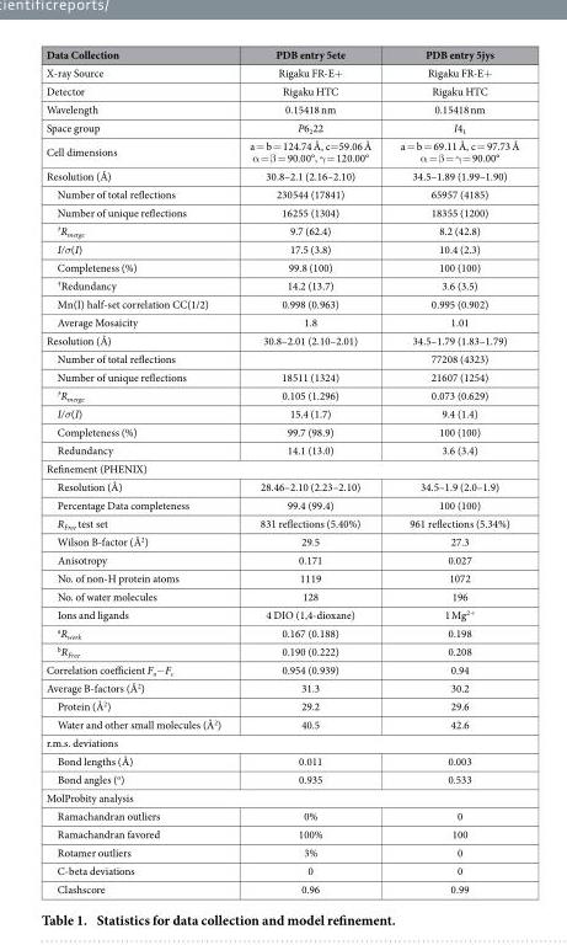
<table><thead><tr><td>Data Collection</td><td>PDB entry 5ete</td><td>PDB entry 5jys</td></tr></thead><tbody><tr><td>X-ray Source</td><td>Rigaku FR-E+</td><td>Rigaku FR-E+</td></tr><tr><td>Detector</td><td>Rigaku HTC</td><td>Rigaku HTC</td></tr><tr><td>Wavelength</td><td>0.15418 nm</td><td>0.15418 nm</td></tr><tr><td>Space group</td><td>P6<sub>2</sub>22</td><td>I4<sub>1</sub></td></tr><tr><td>Cell dimensions</td><td>a = b = 124.74 Å, c= 59.06 Å α = β = 90.00°, γ = 120.00°</td><td>a = b = 69.11 Å, c = 97.73 Å α = β = γ = 90.00°</td></tr><tr><td>Resolution (Å)</td><td>30.8–2.1 (2.16–2.10)</td><td>34.5–1.89 (1.99–1.90)</td></tr><tr><td>Number of total reflections</td><td>230544 (17841)</td><td>65957 (4185)</td></tr><tr><td>Number of unique reflections</td><td>16255 (1304)</td><td>18355 (1200)</td></tr><tr><td><sup>†</sup>R<sub>merge</sub></td><td>9.7 (62.4)</td><td>8.2 (42.8)</td></tr><tr><td>I/σ(I)</td><td>17.5 (3.8)</td><td>10.4 (2.3)</td></tr><tr><td>Completeness (%)</td><td>99.8 (100)</td><td>100 (100)</td></tr><tr><td><sup>†</sup>Redundancy</td><td>14.2 (13.7)</td><td>3.6 (3.5)</td></tr><tr><td>Mn(I) half-set correlation CC(1/2)</td><td>0.998 (0.963)</td><td>0.995 (0.902)</td></tr><tr><td>Average Mosaicity</td><td>1.8</td><td>1.01</td></tr><tr><td>Resolution (Å)</td><td>30.8–2.01 (2.10–2.01)</td><td>34.5–1.79 (1.83–1.79)</td></tr><tr><td>Number of total reflections</td><td></td><td>77208 (4323)</td></tr><tr><td>Number of unique reflections</td><td>18511 (1324)</td><td>21607 (1254)</td></tr><tr><td><sup>†</sup>R<sub>merge</sub></td><td>0.105 (1.296)</td><td>0.073 (0.629)</td></tr><tr><td>I/σ(I)</td><td>15.4 (1.7)</td><td>9.4 (1.4)</td></tr><tr><td>Completeness (%)</td><td>99.7 (98.9)</td><td>100 (100)</td></tr><tr><td>Redundancy</td><td>14.1 (13.0)</td><td>3.6 (3.4)</td></tr><tr><td colspan="3">Refinement (PHENIX)</td></tr><tr><td>Resolution (Å)</td><td>28.46–2.10 (2.23–2.10)</td><td>34.5–1.9 (2.0–1.9)</td></tr><tr><td>Percentage Data completeness</td><td>99.4 (99.4)</td><td>100 (100)</td></tr><tr><td>R<sub>Free</sub> test set</td><td>831 reflections (5.40%)</td><td>961 reflections (5.34%)</td></tr><tr><td>Wilson B-factor (Å<sup>2</sup>)</td><td>29.5</td><td>27.3</td></tr><tr><td>Anisotropy</td><td>0.171</td><td>0.027</td></tr><tr><td>No. of non-H protein atoms</td><td>1119</td><td>1072</td></tr><tr><td>No. of water molecules</td><td>128</td><td>196</td></tr><tr><td>Ions and ligands</td><td>4 DIO (1,4-dioxane)</td><td>1 Mg<sup>2+</sup></td></tr><tr><td><sup>a</sup>R<sub>work</sub></td><td>0.167 (0.188)</td><td>0.198</td></tr><tr><td><sup>b</sup>R<sub>Free</sub></td><td>0.190 (0.222)</td><td>0.208</td></tr><tr><td>Correlation coefficient F<sub>o</sub>−F<sub>c</sub></td><td>0.954 (0.939)</td><td>0.94</td></tr><tr><td>Average B-factors (Å<sup>2</sup>)</td><td>31.3</td><td>30.2</td></tr><tr><td>Protein (Å<sup>2</sup>)</td><td>29.2</td><td>29.6</td></tr><tr><td>Water and other small molecules (Å<sup>2</sup>)</td><td>40.5</td><td>42.6</td></tr><tr><td colspan="3">r.m.s. deviations</td></tr><tr><td>Bond lengths (Å)</td><td>0.011</td><td>0.003</td></tr><tr><td>Bond angles (<sup>o</sup>)</td><td>0.935</td><td>0.533</td></tr><tr><td colspan="3">MolProbity analysis</td></tr><tr><td>Ramachandran outliers</td><td>0%</td><td>0</td></tr><tr><td>Ramachandran favored</td><td>100%</td><td>100</td></tr><tr><td>Rotamer outliers</td><td>3%</td><td>0</td></tr><tr><td>C-beta deviations</td><td>0</td><td>0</td></tr><tr><td>Clashscore</td><td>0.96</td><td>0.99</td></tr></tbody></table>